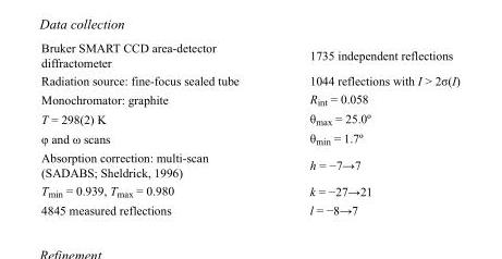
<table><tbody><tr><td>Bruker SMART CCD area-detector diffractometer</td><td>1735 independent reflections</td></tr><tr><td>Radiation source: fine-focus sealed tube</td><td>1044 reflections with I &gt; 2σ(I)</td></tr><tr><td>Monochromator: graphite</td><td>R<sub>int</sub> = 0.058</td></tr><tr><td>T = 298(2) K</td><td>θ<sub>max</sub> = 25.0º</td></tr><tr><td>φ and ω scans</td><td>θ<sub>min</sub> = 1.7º</td></tr><tr><td>Absorption correction: multi-scan (SADABS; Sheldrick, 1996)</td><td>h = −7→7</td></tr><tr><td>T<sub>min</sub> = 0.939, T<sub>max</sub> = 0.980</td><td>k = −27→21</td></tr><tr><td>4845 measured reflections</td><td>l = −8→7</td></tr></tbody></table>